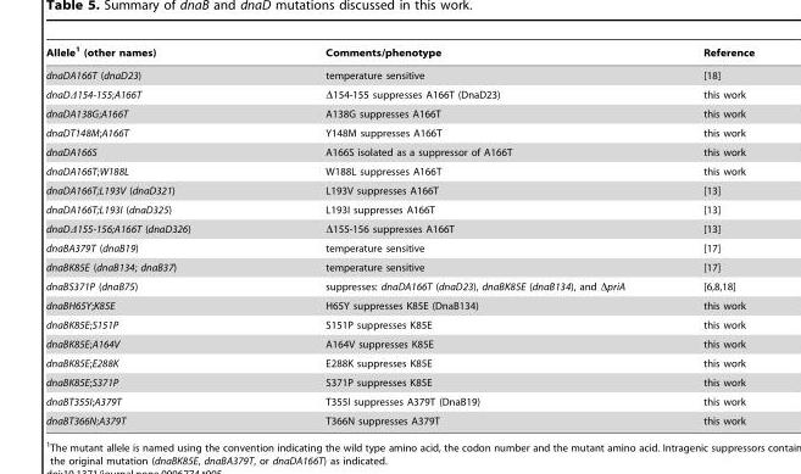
<table><thead><tr><td>Allele<sup>1</sup> (other names)</td><td>Comments/phenotype</td><td>Reference</td></tr></thead><tbody><tr><td>dnaDA166T (dnaD23)</td><td>temperature sensitive</td><td>[18]</td></tr><tr><td>dnaDΔ154-155;A166T</td><td>Δ154-155 suppresses A166T (DnaD23)</td><td>this work</td></tr><tr><td>dnaDA138G;A166T</td><td>A138G suppresses A166T</td><td>this work</td></tr><tr><td>dnaDT148M;A166T</td><td>Y148M suppresses A166T</td><td>this work</td></tr><tr><td>dnaDA166S</td><td>A166S isolated as a suppressor of A166T</td><td>this work</td></tr><tr><td>dnaDA166T;W188L</td><td>W188L suppresses A166T</td><td>this work</td></tr><tr><td>dnaDA166T;L193V (dnaD321)</td><td>L193V suppresses A166T</td><td>[13]</td></tr><tr><td>dnaDA166T;L193I (dnaD325)</td><td>L193I suppresses A166T</td><td>[13]</td></tr><tr><td>dnaDΔ155-156;A166T (dnaD326)</td><td>Δ155-156 suppresses A166T</td><td>[13]</td></tr><tr><td>dnaBA379T (dnaB19)</td><td>temperature sensitive</td><td>[17]</td></tr><tr><td>dnaBK85E (dnaB134; dnaB37)</td><td>temperature sensitive</td><td>[17]</td></tr><tr><td>dnaBS371P (dnaB75)</td><td>suppresses: dnaDA166T (dnaD23), dnaBK85E (dnaB134), and ΔpriA</td><td>[6,8,18]</td></tr><tr><td>dnaBH65Y;K85E</td><td>H65Y suppresses K85E (DnaB134)</td><td>this work</td></tr><tr><td>dnaBK85E;S151P</td><td>S151P suppresses K85E</td><td>this work</td></tr><tr><td>dnaBK85E;A164V</td><td>A164V suppresses K85E</td><td>this work</td></tr><tr><td>dnaBK85E;E288K</td><td>E288K suppresses K85E</td><td>this work</td></tr><tr><td>dnaBK85E;S371P</td><td>S371P suppresses K85E</td><td>this work</td></tr><tr><td>dnaBT355I;A379T</td><td>T355I suppresses A379T (DnaB19)</td><td>this work</td></tr><tr><td>dnaBT366N;A379T</td><td>T366N suppresses A379T</td><td>this work</td></tr></tbody></table>